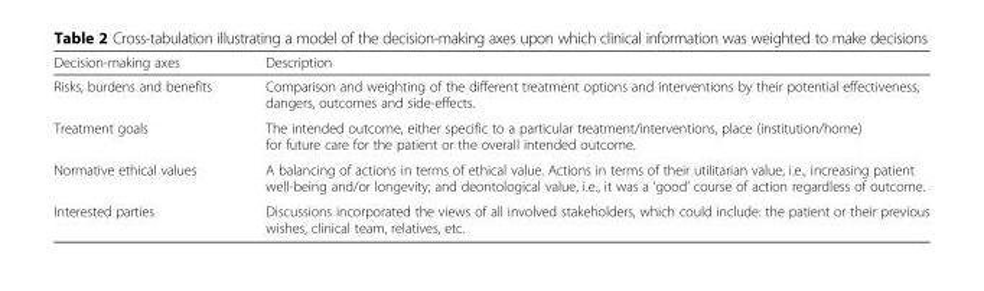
<table><thead><tr><td>Decision-making axes</td><td>Description</td></tr></thead><tbody><tr><td>Risks, burdens and benefits</td><td>Comparison and weighting of the different treatment options and interventions by their potential effectiveness, dangers, outcomes and side-effects.</td></tr><tr><td>Treatment goals</td><td>The intended outcome, either specific to a particular treatment/interventions, place (institution/home) for future care for the patient or the overall intended outcome.</td></tr><tr><td>Normative ethical values</td><td>A balancing of actions in terms of ethical value. Actions in terms of their utilitarian value, i.e., increasing patient well-being and/or longevity; and deontological value, i.e., it was a ‘good’ course of action regardless of outcome.</td></tr><tr><td>Interested parties</td><td>Discussions incorporated the views of all involved stakeholders, which could include: the patient or their previous wishes, clinical team, relatives, etc.</td></tr></tbody></table>